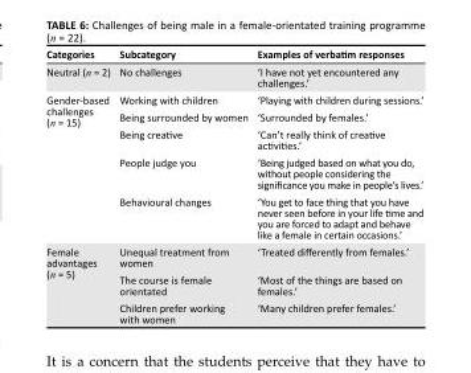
<table><thead><tr><td>Categories</td><td>Subcategory</td><td>Examples of verbatim responses</td></tr></thead><tbody><tr><td>Neutral (n = 2)</td><td>No challenges</td><td>‘I have not yet encountered any challenges.’</td></tr><tr><td rowspan="5">Gender-based challenges (n = 15)</td><td>Working with children</td><td>‘Playing with children during sessions.’</td></tr><tr><td>Being surrounded by women</td><td>‘Surrounded by females.’</td></tr><tr><td>Being creative</td><td>‘Can’t really think of creative activities.’</td></tr><tr><td>People judge you</td><td>‘Being judged based on what you do, without people considering the significance you make in people’s lives.’</td></tr><tr><td>Behavioural changes</td><td>‘You get to face thing that you have never seen before in your life time and you are forced to adapt and behave like a female in certain occasions.’</td></tr><tr><td rowspan="3">Female advantages (n = 5)</td><td>Unequal treatment from women</td><td>‘Treated differently from females.’</td></tr><tr><td>The course is female orientated</td><td>‘Most of the things are based on females.’</td></tr><tr><td>Children prefer working with women</td><td>‘Many children prefer females.’</td></tr></tbody></table>